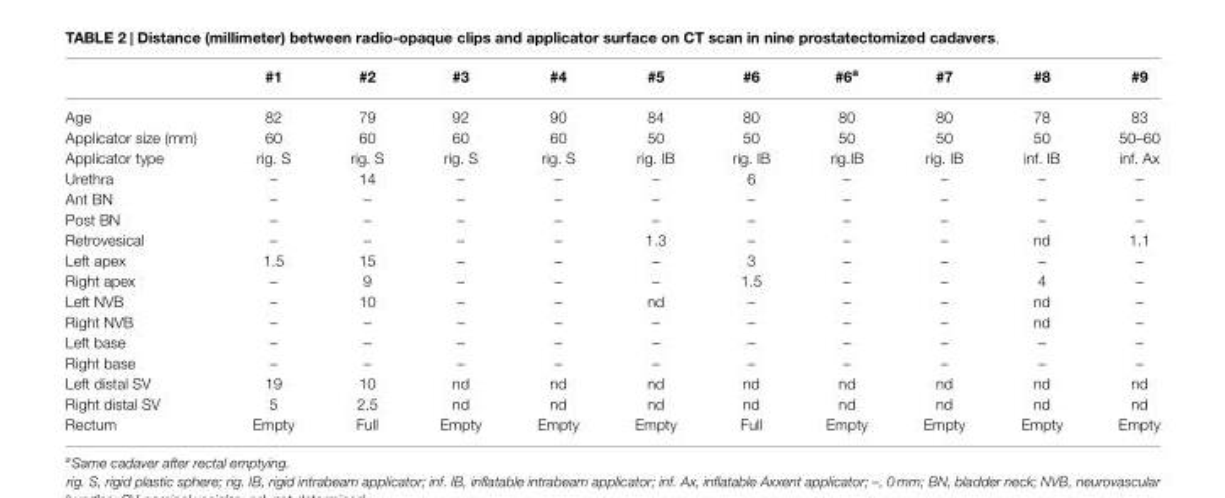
<table><thead><tr><td></td><td>#1</td><td>#2</td><td>#3</td><td>#4</td><td>#5</td><td>#6</td><td>#6<sup>a</sup></td><td>#7</td><td>#8</td><td>#9</td></tr></thead><tbody><tr><td>Age</td><td>82</td><td>79</td><td>92</td><td>90</td><td>84</td><td>80</td><td>80</td><td>80</td><td>78</td><td>83</td></tr><tr><td>Applicator size (mm)</td><td>60</td><td>60</td><td>60</td><td>60</td><td>50</td><td>50</td><td>50</td><td>50</td><td>50</td><td>50–60</td></tr><tr><td>Applicator type</td><td>rig. S</td><td>rig. S</td><td>rig. S</td><td>rig. S</td><td>rig. IB</td><td>rig. IB</td><td>rig.IB</td><td>rig. IB</td><td>inf. IB</td><td>inf. Ax</td></tr><tr><td>Urethra</td><td>–</td><td>14</td><td>–</td><td>–</td><td>–</td><td>6</td><td>–</td><td>–</td><td>–</td><td>–</td></tr><tr><td>Ant BN</td><td>–</td><td>–</td><td>–</td><td>–</td><td>–</td><td>–</td><td>–</td><td>–</td><td>–</td><td>–</td></tr><tr><td>Post BN</td><td>–</td><td>–</td><td>–</td><td>–</td><td>–</td><td>–</td><td>–</td><td>–</td><td>–</td><td>–</td></tr><tr><td>Retrovesical</td><td>–</td><td>–</td><td>–</td><td>–</td><td>1.3</td><td>–</td><td>–</td><td>–</td><td>nd</td><td>1.1</td></tr><tr><td>Left apex</td><td>1.5</td><td>15</td><td>–</td><td>–</td><td>–</td><td>3</td><td>–</td><td>–</td><td>–</td><td>–</td></tr><tr><td>Right apex</td><td>–</td><td>9</td><td>–</td><td>–</td><td>–</td><td>1.5</td><td>–</td><td>–</td><td>4</td><td>–</td></tr><tr><td>Left NVB</td><td>–</td><td>10</td><td>–</td><td>–</td><td>nd</td><td>–</td><td>–</td><td>–</td><td>nd</td><td>–</td></tr><tr><td>Right NVB</td><td>–</td><td>–</td><td>–</td><td>–</td><td>–</td><td>–</td><td>–</td><td>–</td><td>nd</td><td>–</td></tr><tr><td>Left base</td><td>–</td><td>–</td><td>–</td><td>–</td><td>–</td><td>–</td><td>–</td><td>–</td><td>–</td><td>–</td></tr><tr><td>Right base</td><td>–</td><td>–</td><td>–</td><td>–</td><td>–</td><td>–</td><td>–</td><td>–</td><td>–</td><td>–</td></tr><tr><td>Left distal SV</td><td>19</td><td>10</td><td>nd</td><td>nd</td><td>nd</td><td>nd</td><td>nd</td><td>nd</td><td>nd</td><td>nd</td></tr><tr><td>Right distal SV</td><td>5</td><td>2.5</td><td>nd</td><td>nd</td><td>nd</td><td>nd</td><td>nd</td><td>nd</td><td>nd</td><td>nd</td></tr><tr><td>Rectum</td><td>Empty</td><td>Full</td><td>Empty</td><td>Empty</td><td>Empty</td><td>Full</td><td>Empty</td><td>Empty</td><td>Empty</td><td>Empty</td></tr></tbody></table>